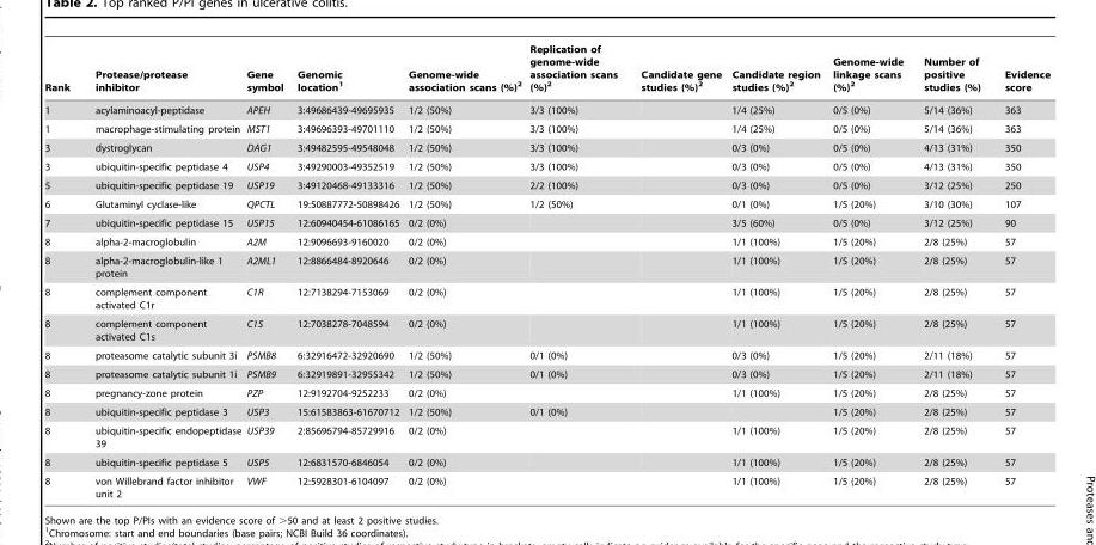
<table><thead><tr><td>Rank</td><td>Protease/protease inhibitor</td><td>Gene symbol</td><td>Genomic location<sup>1</sup></td><td>Genome-wide association scans (%)<sup>2</sup></td><td>Replication of genome-wide association scans (%)<sup>2</sup></td><td>Candidate gene studies (%)<sup>2</sup></td><td>Candidate region studies (%)<sup>2</sup></td><td>Genome-wide linkage scans (%)<sup>2</sup></td><td>Number of positive studies (%)</td><td>Evidence score</td></tr></thead><tbody><tr><td>1</td><td>acylaminoacyl-peptidase</td><td>APEH</td><td>3:49686439-49695935</td><td>1/2 (50%)</td><td>3/3 (100%)</td><td></td><td>1/4 (25%)</td><td>0/5 (0%)</td><td>5/14 (36%)</td><td>363</td></tr><tr><td>1</td><td>macrophage-stimulating protein</td><td>MST1</td><td>3:49696393-49701110</td><td>1/2 (50%)</td><td>3/3 (100%)</td><td></td><td>1/4 (25%)</td><td>0/5 (0%)</td><td>5/14 (36%)</td><td>363</td></tr><tr><td>3</td><td>dystroglycan</td><td>DAG1</td><td>3:49482595-49548048</td><td>1/2 (50%)</td><td>3/3 (100%)</td><td></td><td>0/3 (0%)</td><td>0/5 (0%)</td><td>4/13 (31%)</td><td>350</td></tr><tr><td>3</td><td>ubiquitin-specific peptidase 4</td><td>USP4</td><td>3:49290003-49352519</td><td>1/2 (50%)</td><td>3/3 (100%)</td><td></td><td>0/3 (0%)</td><td>0/5 (0%)</td><td>4/13 (31%)</td><td>350</td></tr><tr><td>5</td><td>ubiquitin-specific peptidase 19</td><td>USP19</td><td>3:49120468-49133316</td><td>1/2 (50%)</td><td>2/2 (100%)</td><td></td><td>0/3 (0%)</td><td>0/5 (0%)</td><td>3/12 (25%)</td><td>250</td></tr><tr><td>6</td><td>Glutaminyl cyclase-like</td><td>QPCTL</td><td>19:50887772-50898426</td><td>1/2 (50%)</td><td>1/2 (50%)</td><td></td><td>0/1 (0%)</td><td>1/5 (20%)</td><td>3/10 (30%)</td><td>107</td></tr><tr><td>7</td><td>ubiquitin-specific peptidase 15</td><td>USP15</td><td>12:60940454-61086165</td><td>0/2 (0%)</td><td></td><td></td><td>3/5 (60%)</td><td>0/5 (0%)</td><td>3/12 (25%)</td><td>90</td></tr><tr><td>8</td><td>alpha-2-macroglobulin</td><td>A2M</td><td>12:9096693-9160020</td><td>0/2 (0%)</td><td></td><td></td><td>1/1 (100%)</td><td>1/5 (20%)</td><td>2/8 (25%)</td><td>57</td></tr><tr><td>8</td><td>alpha-2-macroglobulin-like 1 protein</td><td>A2ML1</td><td>12:8866484-8920646</td><td>0/2 (0%)</td><td></td><td></td><td>1/1 (100%)</td><td>1/5 (20%)</td><td>2/8 (25%)</td><td>57</td></tr><tr><td>8</td><td>complement component activated C1r</td><td>C1R</td><td>12:7138294-7153069</td><td>0/2 (0%)</td><td></td><td></td><td>1/1 (100%)</td><td>1/5 (20%)</td><td>2/8 (25%)</td><td>57</td></tr><tr><td>8</td><td>complement component activated C1s</td><td>C1S</td><td>12:7038278-7048594</td><td>0/2 (0%)</td><td></td><td></td><td>1/1 (100%)</td><td>1/5 (20%)</td><td>2/8 (25%)</td><td>57</td></tr><tr><td>8</td><td>proteasome catalytic subunit 3i</td><td>PSMB8</td><td>6:32916472-32920690</td><td>1/2 (50%)</td><td>0/1 (0%)</td><td></td><td>0/3 (0%)</td><td>1/5 (20%)</td><td>2/11 (18%)</td><td>57</td></tr><tr><td>8</td><td>proteasome catalytic subunit 1i</td><td>PSMB9</td><td>6:32919891-32955342</td><td>1/2 (50%)</td><td>0/1 (0%)</td><td></td><td>0/3 (0%)</td><td>1/5 (20%)</td><td>2/11 (18%)</td><td>57</td></tr><tr><td>8</td><td>pregnancy-zone protein</td><td>PZP</td><td>12:9192704-9252233</td><td>0/2 (0%)</td><td></td><td></td><td>1/1 (100%)</td><td>1/5 (20%)</td><td>2/8 (25%)</td><td>57</td></tr><tr><td>8</td><td>ubiquitin-specific peptidase 3</td><td>USP3</td><td>15:61583863-61670712</td><td>1/2 (50%)</td><td>0/1 (0%)</td><td></td><td></td><td>1/5 (20%)</td><td>2/8 (25%)</td><td>57</td></tr><tr><td>8</td><td>ubiquitin-specific endopeptidase 39</td><td>USP39</td><td>2:85696794-85729916</td><td>0/2 (0%)</td><td></td><td></td><td>1/1 (100%)</td><td>1/5 (20%)</td><td>2/8 (25%)</td><td>57</td></tr><tr><td>8</td><td>ubiquitin-specific peptidase 5</td><td>USP5</td><td>12:6831570-6846054</td><td>0/2 (0%)</td><td></td><td></td><td>1/1 (100%)</td><td>1/5 (20%)</td><td>2/8 (25%)</td><td>57</td></tr><tr><td>8</td><td>von Willebrand factor inhibitor unit 2</td><td>VWF</td><td>12:5928301-6104097</td><td>0/2 (0%)</td><td></td><td></td><td>1/1 (100%)</td><td>1/5 (20%)</td><td>2/8 (25%)</td><td>57</td></tr></tbody></table>